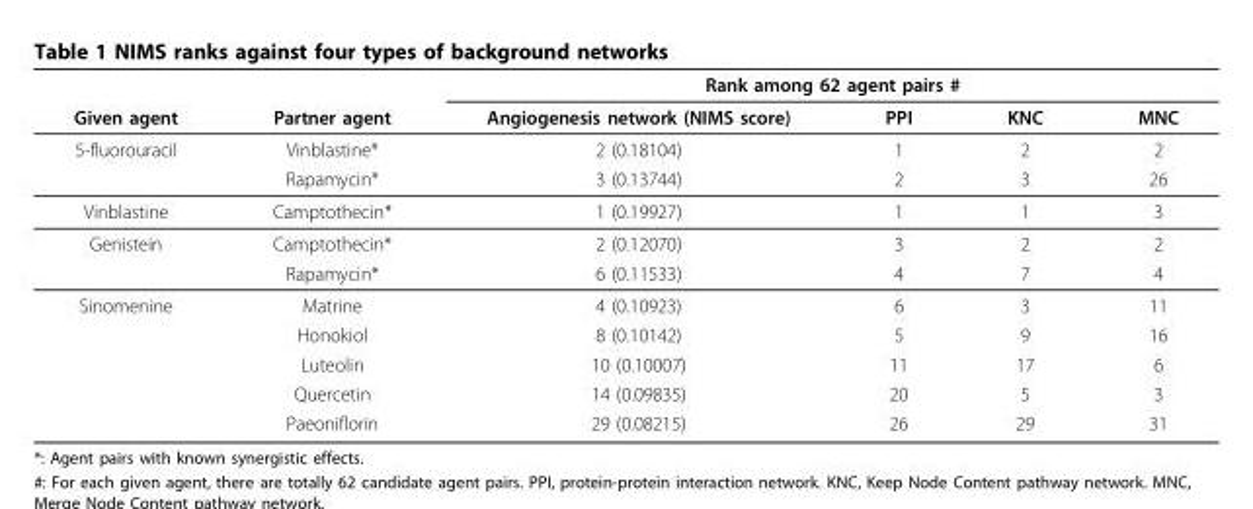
<table><thead><tr><td rowspan="2">Given agent</td><td rowspan="2">Partner agent</td><td colspan="4">Rank among 62 agent pairs #</td></tr><tr><td>Angiogenesis network (NIMS score)</td><td>PPI</td><td>KNC</td><td>MNC</td></tr></thead><tbody><tr><td rowspan="2">5-fluorouracil</td><td>Vinblastine*</td><td>2 (0.18104)</td><td>1</td><td>2</td><td>2</td></tr><tr><td>Rapamycin*</td><td>3 (0.13744)</td><td>2</td><td>3</td><td>26</td></tr><tr><td>Vinblastine</td><td>Camptothecin*</td><td>1 (0.19927)</td><td>1</td><td>1</td><td>3</td></tr><tr><td rowspan="2">Genistein</td><td>Camptothecin*</td><td>2 (0.12070)</td><td>3</td><td>2</td><td>2</td></tr><tr><td>Rapamycin*</td><td>6 (0.11533)</td><td>4</td><td>7</td><td>4</td></tr><tr><td rowspan="5">Sinomenine</td><td>Matrine</td><td>4 (0.10923)</td><td>6</td><td>3</td><td>11</td></tr><tr><td>Honokiol</td><td>8 (0.10142)</td><td>5</td><td>9</td><td>16</td></tr><tr><td>Luteolin</td><td>10 (0.10007)</td><td>11</td><td>17</td><td>6</td></tr><tr><td>Quercetin</td><td>14 (0.09835)</td><td>20</td><td>5</td><td>3</td></tr><tr><td>Paeoniflorin</td><td>29 (0.08215)</td><td>26</td><td>29</td><td>31</td></tr></tbody></table>